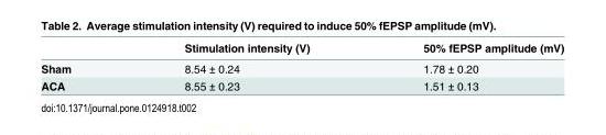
<table><thead><tr><td></td><td>Stimulation intensity (V)</td><td>50% fEPSP amplitude (mV)</td></tr></thead><tbody><tr><td>Sham</td><td>8.54 ± 0.24</td><td>1.78 ± 0.20</td></tr><tr><td>ACA</td><td>8.55 ± 0.23</td><td>1.51 ± 0.13</td></tr></tbody></table>